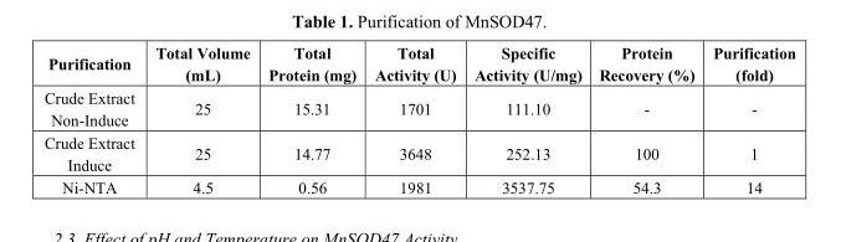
<table><thead><tr><td>Purification</td><td>Total Volume (mL)</td><td>Total Protein (mg)</td><td>Total Activity (U)</td><td>Specific Activity (U/mg)</td><td>Protein Recovery (%)</td><td>Purification (fold)</td></tr></thead><tbody><tr><td>Crude Extract Non-Induce</td><td>25</td><td>15.31</td><td>1701</td><td>111.10</td><td>-</td><td>-</td></tr><tr><td>Crude Extract Induce</td><td>25</td><td>14.77</td><td>3648</td><td>252.13</td><td>100</td><td>1</td></tr><tr><td>Ni-NTA</td><td>4.5</td><td>0.56</td><td>1981</td><td>3537.75</td><td>54.3</td><td>14</td></tr></tbody></table>